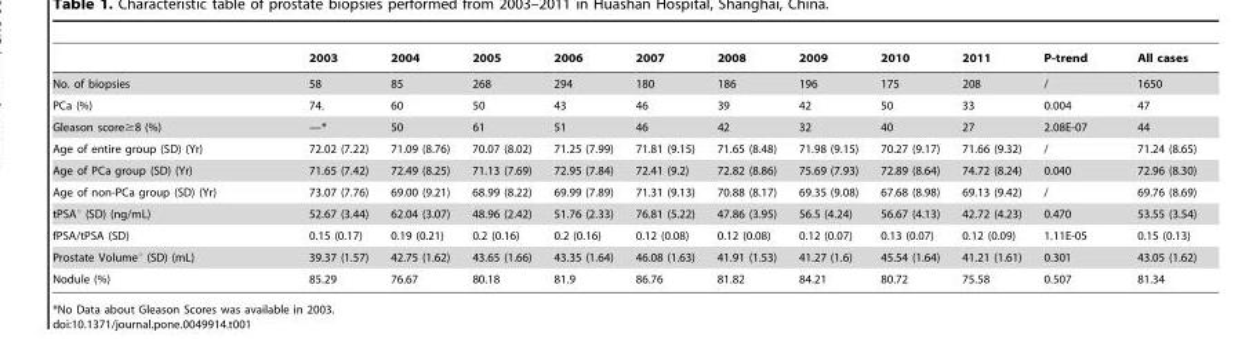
<table><thead><tr><td></td><td>2003</td><td>2004</td><td>2005</td><td>2006</td><td>2007</td><td>2008</td><td>2009</td><td>2010</td><td>2011</td><td>P-trend</td><td>All cases</td></tr></thead><tbody><tr><td>No. of biopsies</td><td>58</td><td>85</td><td>268</td><td>294</td><td>180</td><td>186</td><td>196</td><td>175</td><td>208</td><td>/</td><td>1650</td></tr><tr><td>PCa (%)</td><td>74.</td><td>60</td><td>50</td><td>43</td><td>46</td><td>39</td><td>42</td><td>50</td><td>33</td><td>0.004</td><td>47</td></tr><tr><td>Gleason score≥8 (%)</td><td>—*</td><td>50</td><td>61</td><td>51</td><td>46</td><td>42</td><td>32</td><td>40</td><td>27</td><td>2.08E-07</td><td>44</td></tr><tr><td>Age of entire group (SD) (Yr)</td><td>72.02 (7.22)</td><td>71.09 (8.76)</td><td>70.07 (8.02)</td><td>71.25 (7.99)</td><td>71.81 (9.15)</td><td>71.65 (8.48)</td><td>71.98 (9.15)</td><td>70.27 (9.17)</td><td>71.66 (9.32)</td><td>/</td><td>71.24 (8.65)</td></tr><tr><td>Age of PCa group (SD) (Yr)</td><td>71.65 (7.42)</td><td>72.49 (8.25)</td><td>71.13 (7.69)</td><td>72.95 (7.84)</td><td>72.41 (9.2)</td><td>72.82 (8.86)</td><td>75.69 (7.93)</td><td>72.89 (8.64)</td><td>74.72 (8.24)</td><td>0.040</td><td>72.96 (8.30)</td></tr><tr><td>Age of non-PCa group (SD) (Yr)</td><td>73.07 (7.76)</td><td>69.00 (9.21)</td><td>68.99 (8.22)</td><td>69.99 (7.89)</td><td>71.31 (9.13)</td><td>70.88 (8.17)</td><td>69.35 (9.08)</td><td>67.68 (8.98)</td><td>69.13 (9.42)</td><td>/</td><td>69.76 (8.69)</td></tr><tr><td>tPSA° (SD) (ng/mL)</td><td>52.67 (3.44)</td><td>62.04 (3.07)</td><td>48.96 (2.42)</td><td>51.76 (2.33)</td><td>76.81 (5.22)</td><td>47.86 (3.95)</td><td>56.5 (4.24)</td><td>56.67 (4.13)</td><td>42.72 (4.23)</td><td>0.470</td><td>53.55 (3.54)</td></tr><tr><td>fPSA/tPSA (SD)</td><td>0.15 (0.17)</td><td>0.19 (0.21)</td><td>0.2 (0.16)</td><td>0.2 (0.16)</td><td>0.12 (0.08)</td><td>0.12 (0.08)</td><td>0.12 (0.07)</td><td>0.13 (0.07)</td><td>0.12 (0.09)</td><td>1.11E-05</td><td>0.15 (0.13)</td></tr><tr><td>Prostate Volume° (SD) (mL)</td><td>39.37 (1.57)</td><td>42.75 (1.62)</td><td>43.65 (1.66)</td><td>43.35 (1.64)</td><td>46.08 (1.63)</td><td>41.91 (1.53)</td><td>41.27 (1.6)</td><td>45.54 (1.64)</td><td>41.21 (1.61)</td><td>0.301</td><td>43.05 (1.62)</td></tr><tr><td>Nodule (%)</td><td>85.29</td><td>76.67</td><td>80.18</td><td>81.9</td><td>86.76</td><td>81.82</td><td>84.21</td><td>80.72</td><td>75.58</td><td>0.507</td><td>81.34</td></tr></tbody></table>